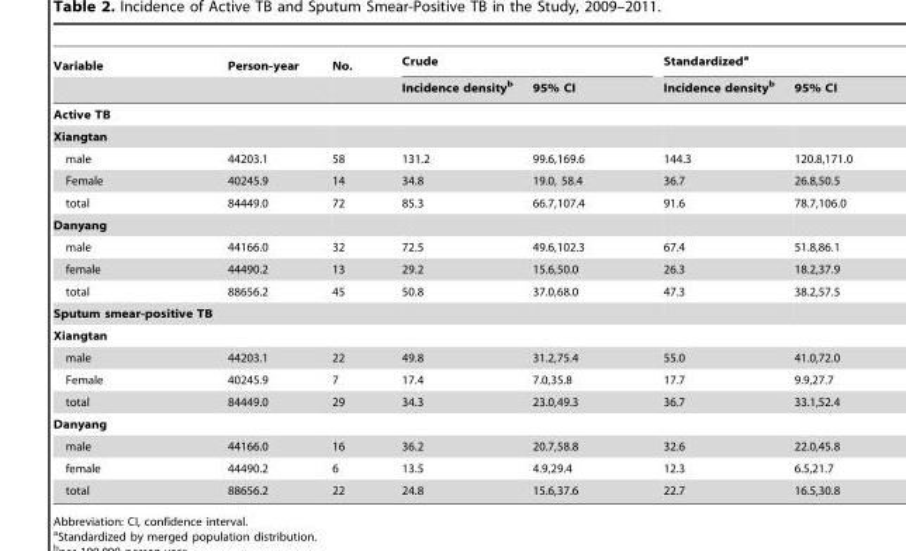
<table><thead><tr><td rowspan="2">Variable</td><td rowspan="2">Person-year</td><td rowspan="2">No.</td><td colspan="2">Crude</td><td colspan="2">Standardized<sup>a</sup></td></tr><tr><td>Incidence density<sup>b</sup></td><td>95% CI</td><td>Incidence density<sup>b</sup></td><td>95% CI</td></tr></thead><tbody><tr><td colspan="7">Active TB</td></tr><tr><td colspan="7">Xiangtan</td></tr><tr><td>male</td><td>44203.1</td><td>58</td><td>131.2</td><td>99.6,169.6</td><td>144.3</td><td>120.8,171.0</td></tr><tr><td>Female</td><td>40245.9</td><td>14</td><td>34.8</td><td>19.0, 58.4</td><td>36.7</td><td>26.8,50.5</td></tr><tr><td>total</td><td>84449.0</td><td>72</td><td>85.3</td><td>66.7,107.4</td><td>91.6</td><td>78.7,106.0</td></tr><tr><td colspan="7">Danyang</td></tr><tr><td>male</td><td>44166.0</td><td>32</td><td>72.5</td><td>49.6,102.3</td><td>67.4</td><td>51.8,86.1</td></tr><tr><td>female</td><td>44490.2</td><td>13</td><td>29.2</td><td>15.6,50.0</td><td>26.3</td><td>18.2,37.9</td></tr><tr><td>total</td><td>88656.2</td><td>45</td><td>50.8</td><td>37.0,68.0</td><td>47.3</td><td>38.2,57.5</td></tr><tr><td colspan="7">Sputum smear-positive TB</td></tr><tr><td colspan="7">Xiangtan</td></tr><tr><td>male</td><td>44203.1</td><td>22</td><td>49.8</td><td>31.2,75.4</td><td>55.0</td><td>41.0,72.0</td></tr><tr><td>Female</td><td>40245.9</td><td>7</td><td>17.4</td><td>7.0,35.8</td><td>17.7</td><td>9.9,27.7</td></tr><tr><td>total</td><td>84449.0</td><td>29</td><td>34.3</td><td>23.0,49.3</td><td>36.7</td><td>33.1,52.4</td></tr><tr><td colspan="7">Danyang</td></tr><tr><td>male</td><td>44166.0</td><td>16</td><td>36.2</td><td>20.7,58.8</td><td>32.6</td><td>22.0,45.8</td></tr><tr><td>female</td><td>44490.2</td><td>6</td><td>13.5</td><td>4.9,29.4</td><td>12.3</td><td>6.5,21.7</td></tr><tr><td>total</td><td>88656.2</td><td>22</td><td>24.8</td><td>15.6,37.6</td><td>22.7</td><td>16.5,30.8</td></tr></tbody></table>